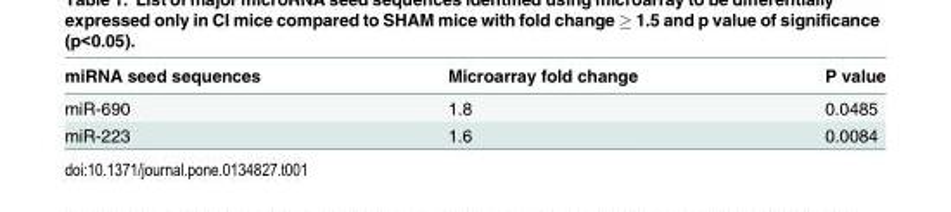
<table><thead><tr><td>miRNA seed sequences</td><td>Microarray fold change</td><td>P value</td></tr></thead><tbody><tr><td>miR-690</td><td>1.8</td><td>0.0485</td></tr><tr><td>miR-223</td><td>1.6</td><td>0.0084</td></tr></tbody></table>